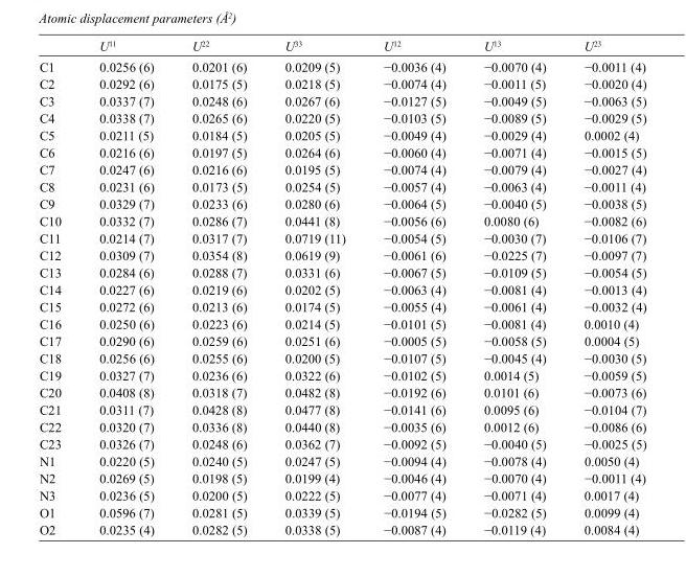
<table><thead><tr><td></td><td>U<sup>11</sup></td><td>U<sup>22</sup></td><td>U<sup>33</sup></td><td>U<sup>12</sup></td><td>U<sup>13</sup></td><td>U<sup>23</sup></td></tr></thead><tbody><tr><td>C1</td><td>0.0256 (6)</td><td>0.0201 (6)</td><td>0.0209 (5)</td><td>−0.0036 (4)</td><td>−0.0070 (4)</td><td>−0.0011 (4)</td></tr><tr><td>C2</td><td>0.0292 (6)</td><td>0.0175 (5)</td><td>0.0218 (5)</td><td>−0.0074 (4)</td><td>−0.0011 (5)</td><td>−0.0020 (4)</td></tr><tr><td>C3</td><td>0.0337 (7)</td><td>0.0248 (6)</td><td>0.0267 (6)</td><td>−0.0127 (5)</td><td>−0.0049 (5)</td><td>−0.0063 (5)</td></tr><tr><td>C4</td><td>0.0338 (7)</td><td>0.0265 (6)</td><td>0.0220 (5)</td><td>−0.0103 (5)</td><td>−0.0089 (5)</td><td>−0.0029 (5)</td></tr><tr><td>C5</td><td>0.0211 (5)</td><td>0.0184 (5)</td><td>0.0205 (5)</td><td>−0.0049 (4)</td><td>−0.0029 (4)</td><td>0.0002 (4)</td></tr><tr><td>C6</td><td>0.0216 (6)</td><td>0.0197 (5)</td><td>0.0264 (6)</td><td>−0.0060 (4)</td><td>−0.0071 (4)</td><td>−0.0015 (5)</td></tr><tr><td>C7</td><td>0.0247 (6)</td><td>0.0216 (6)</td><td>0.0195 (5)</td><td>−0.0074 (4)</td><td>−0.0079 (4)</td><td>−0.0027 (4)</td></tr><tr><td>C8</td><td>0.0231 (6)</td><td>0.0173 (5)</td><td>0.0254 (5)</td><td>−0.0057 (4)</td><td>−0.0063 (4)</td><td>−0.0011 (4)</td></tr><tr><td>C9</td><td>0.0329 (7)</td><td>0.0233 (6)</td><td>0.0280 (6)</td><td>−0.0064 (5)</td><td>−0.0040 (5)</td><td>−0.0038 (5)</td></tr><tr><td>C10</td><td>0.0332 (7)</td><td>0.0286 (7)</td><td>0.0441 (8)</td><td>−0.0056 (6)</td><td>0.0080 (6)</td><td>−0.0082 (6)</td></tr><tr><td>C11</td><td>0.0214 (7)</td><td>0.0317 (7)</td><td>0.0719 (11)</td><td>−0.0054 (5)</td><td>−0.0030 (7)</td><td>−0.0106 (7)</td></tr><tr><td>C12</td><td>0.0309 (7)</td><td>0.0354 (8)</td><td>0.0619 (9)</td><td>−0.0061 (6)</td><td>−0.0225 (7)</td><td>−0.0097 (7)</td></tr><tr><td>C13</td><td>0.0284 (6)</td><td>0.0288 (7)</td><td>0.0331 (6)</td><td>−0.0067 (5)</td><td>−0.0109 (5)</td><td>−0.0054 (5)</td></tr><tr><td>C14</td><td>0.0227 (6)</td><td>0.0219 (6)</td><td>0.0202 (5)</td><td>−0.0063 (4)</td><td>−0.0081 (4)</td><td>−0.0013 (4)</td></tr><tr><td>C15</td><td>0.0272 (6)</td><td>0.0213 (6)</td><td>0.0174 (5)</td><td>−0.0055 (4)</td><td>−0.0061 (4)</td><td>−0.0032 (4)</td></tr><tr><td>C16</td><td>0.0250 (6)</td><td>0.0223 (6)</td><td>0.0214 (5)</td><td>−0.0101 (5)</td><td>−0.0081 (4)</td><td>0.0010 (4)</td></tr><tr><td>C17</td><td>0.0290 (6)</td><td>0.0259 (6)</td><td>0.0251 (6)</td><td>−0.0005 (5)</td><td>−0.0058 (5)</td><td>0.0004 (5)</td></tr><tr><td>C18</td><td>0.0256 (6)</td><td>0.0255 (6)</td><td>0.0200 (5)</td><td>−0.0107 (5)</td><td>−0.0045 (4)</td><td>−0.0030 (5)</td></tr><tr><td>C19</td><td>0.0327 (7)</td><td>0.0236 (6)</td><td>0.0322 (6)</td><td>−0.0102 (5)</td><td>0.0014 (5)</td><td>−0.0059 (5)</td></tr><tr><td>C20</td><td>0.0408 (8)</td><td>0.0318 (7)</td><td>0.0482 (8)</td><td>−0.0192 (6)</td><td>0.0101 (6)</td><td>−0.0073 (6)</td></tr><tr><td>C21</td><td>0.0311 (7)</td><td>0.0428 (8)</td><td>0.0477 (8)</td><td>−0.0141 (6)</td><td>0.0095 (6)</td><td>−0.0104 (7)</td></tr><tr><td>C22</td><td>0.0320 (7)</td><td>0.0336 (8)</td><td>0.0440 (8)</td><td>−0.0035 (6)</td><td>0.0012 (6)</td><td>−0.0086 (6)</td></tr><tr><td>C23</td><td>0.0326 (7)</td><td>0.0248 (6)</td><td>0.0362 (7)</td><td>−0.0092 (5)</td><td>−0.0040 (5)</td><td>−0.0025 (5)</td></tr><tr><td>N1</td><td>0.0220 (5)</td><td>0.0240 (5)</td><td>0.0247 (5)</td><td>−0.0094 (4)</td><td>−0.0078 (4)</td><td>0.0050 (4)</td></tr><tr><td>N2</td><td>0.0269 (5)</td><td>0.0198 (5)</td><td>0.0199 (4)</td><td>−0.0046 (4)</td><td>−0.0070 (4)</td><td>−0.0011 (4)</td></tr><tr><td>N3</td><td>0.0236 (5)</td><td>0.0200 (5)</td><td>0.0222 (5)</td><td>−0.0077 (4)</td><td>−0.0071 (4)</td><td>0.0017 (4)</td></tr><tr><td>O1</td><td>0.0596 (7)</td><td>0.0281 (5)</td><td>0.0339 (5)</td><td>−0.0194 (5)</td><td>−0.0282 (5)</td><td>0.0099 (4)</td></tr><tr><td>O2</td><td>0.0235 (4)</td><td>0.0282 (5)</td><td>0.0338 (5)</td><td>−0.0087 (4)</td><td>−0.0119 (4)</td><td>0.0084 (4)</td></tr></tbody></table>